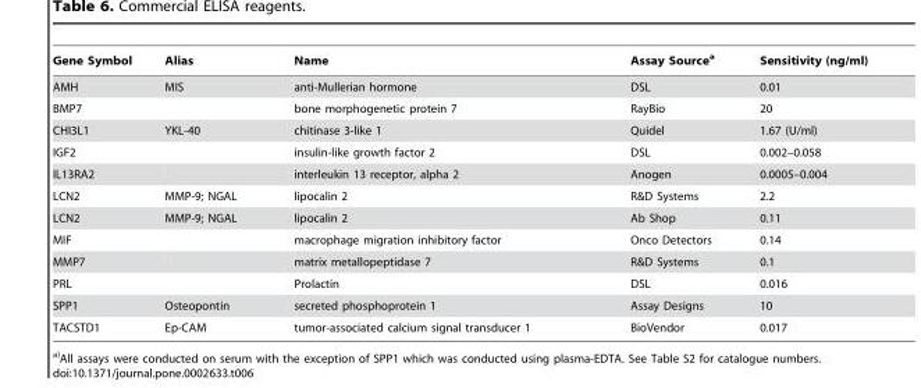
<table><thead><tr><td>Gene Symbol</td><td>Alias</td><td>Name</td><td>Assay Source<sup>a</sup></td><td>Sensitivity (ng/ml)</td></tr></thead><tbody><tr><td>AMH</td><td>MIS</td><td>anti-Mullerian hormone</td><td>DSL</td><td>0.01</td></tr><tr><td>BMP7</td><td></td><td>bone morphogenetic protein 7</td><td>RayBio</td><td>20</td></tr><tr><td>CHI3L1</td><td>YKL-40</td><td>chitinase 3-like 1</td><td>Quidel</td><td>1.67 (U/ml)</td></tr><tr><td>IGF2</td><td></td><td>insulin-like growth factor 2</td><td>DSL</td><td>0.002–0.058</td></tr><tr><td>IL13RA2</td><td></td><td>interleukin 13 receptor, alpha 2</td><td>Anogen</td><td>0.0005–0.004</td></tr><tr><td>LCN2</td><td>MMP-9; NGAL</td><td>lipocalin 2</td><td>R&amp;D Systems</td><td>2.2</td></tr><tr><td>LCN2</td><td>MMP-9; NGAL</td><td>lipocalin 2</td><td>Ab Shop</td><td>0.11</td></tr><tr><td>MIF</td><td></td><td>macrophage migration inhibitory factor</td><td>Onco Detectors</td><td>0.14</td></tr><tr><td>MMP7</td><td></td><td>matrix metallopeptidase 7</td><td>R&amp;D Systems</td><td>0.1</td></tr><tr><td>PRL</td><td></td><td>Prolactin</td><td>DSL</td><td>0.016</td></tr><tr><td>SPP1</td><td>Osteopontin</td><td>secreted phosphoprotein 1</td><td>Assay Designs</td><td>10</td></tr><tr><td>TACSTD1</td><td>Ep-CAM</td><td>tumor-associated calcium signal transducer 1</td><td>BioVendor</td><td>0.017</td></tr></tbody></table>